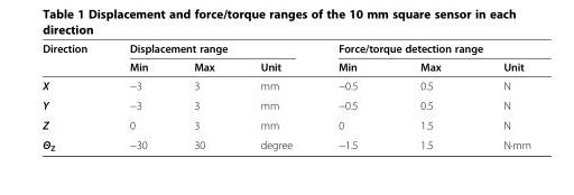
<table><thead><tr><td rowspan="2">Direction</td><td colspan="3">Displacement range</td><td colspan="3">Force/torque detection range</td></tr><tr><td>Min</td><td>Max</td><td>Unit</td><td>Min</td><td>Max</td><td>Unit</td></tr></thead><tbody><tr><td>X</td><td>−3</td><td>3</td><td>mm</td><td>−0.5</td><td>0.5</td><td>N</td></tr><tr><td>Y</td><td>−3</td><td>3</td><td>mm</td><td>−0.5</td><td>0.5</td><td>N</td></tr><tr><td>Z</td><td>0</td><td>3</td><td>mm</td><td>0</td><td>1.5</td><td>N</td></tr><tr><td>Θ<sub>Z</sub></td><td>−30</td><td>30</td><td>degree</td><td>−1.5</td><td>1.5</td><td>N·mm</td></tr></tbody></table>